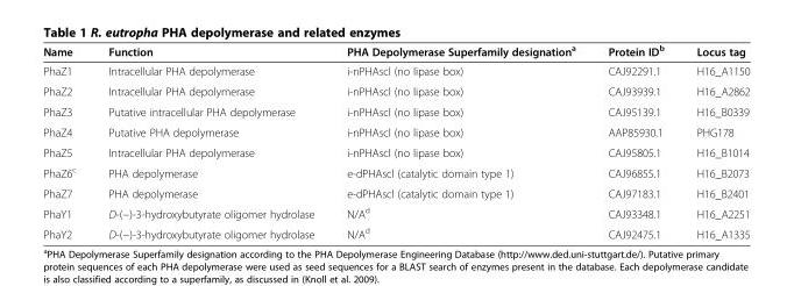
<table><thead><tr><td>Name</td><td>Function</td><td>PHA Depolymerase Superfamily designation<sup>a</sup></td><td>Protein ID<sup>b</sup></td><td>Locus tag</td></tr></thead><tbody><tr><td>PhaZ1</td><td>Intracellular PHA depolymerase</td><td>i-nPHAscl (no lipase box)</td><td>CAJ92291.1</td><td>H16_A1150</td></tr><tr><td>PhaZ2</td><td>Intracellular PHA depolymerase</td><td>i-nPHAscl (no lipase box)</td><td>CAJ93939.1</td><td>H16_A2862</td></tr><tr><td>PhaZ3</td><td>Putative intracellular PHA depolymerase</td><td>i-nPHAscl (no lipase box)</td><td>CAJ95139.1</td><td>H16_B0339</td></tr><tr><td>PhaZ4</td><td>Putative PHA depolymerase</td><td>i-nPHAscl (no lipase box)</td><td>AAP85930.1</td><td>PHG178</td></tr><tr><td>PhaZ5</td><td>Intracellular PHA depolymerase</td><td>i-nPHAscl (no lipase box)</td><td>CAJ95805.1</td><td>H16_B1014</td></tr><tr><td>PhaZ6<sup>c</sup></td><td>PHA depolymerase</td><td>e-dPHAscl (catalytic domain type 1)</td><td>CAJ96855.1</td><td>H16_B2073</td></tr><tr><td>PhaZ7</td><td>PHA depolymerase</td><td>e-dPHAscl (catalytic domain type 1)</td><td>CAJ97183.1</td><td>H16_B2401</td></tr><tr><td>PhaY1</td><td>D-(−)-3-hydroxybutyrate oligomer hydrolase</td><td>N/A<sup>d</sup></td><td>CAJ93348.1</td><td>H16_A2251</td></tr><tr><td>PhaY2</td><td>D-(−)-3-hydroxybutyrate oligomer hydrolase</td><td>N/A<sup>d</sup></td><td>CAJ92475.1</td><td>H16_A1335</td></tr></tbody></table>